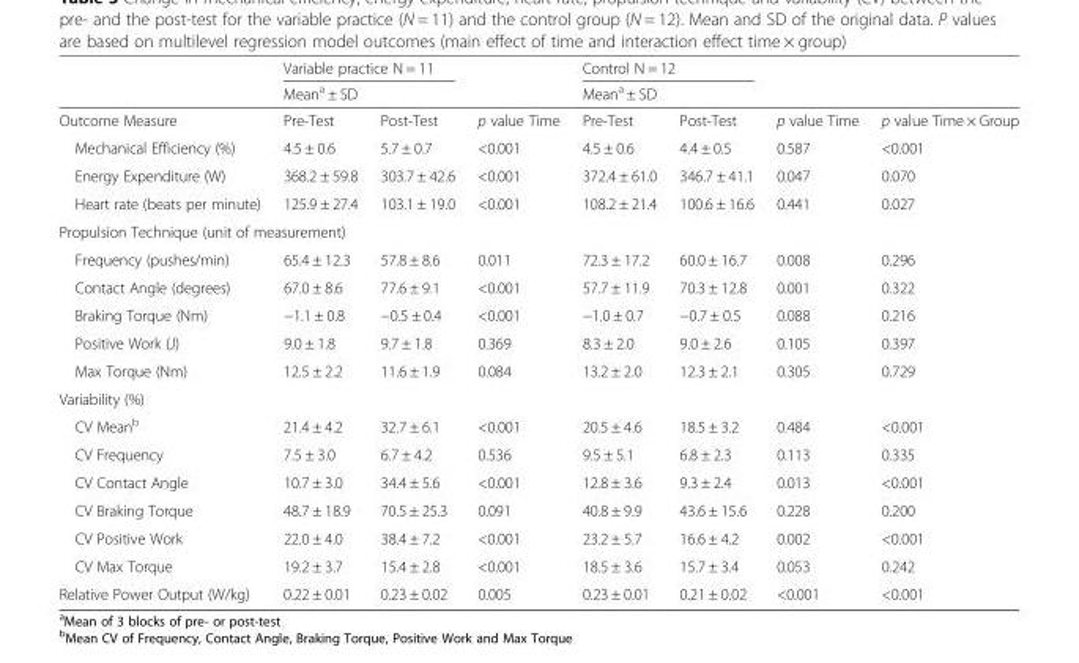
<table><thead><tr><td rowspan="3">Outcome Measure</td><td rowspan="2" colspan="2">Variable practice N = 11 Mean<sup>a</sup> ± SD</td><td rowspan="3">p value Time</td><td rowspan="2" colspan="2">Control N = 12 Mean<sup>a</sup> ± SD</td><td rowspan="3">p value Time</td><td rowspan="3">p value Time × Group</td></tr><tr></tr><tr><td>Pre-Test</td><td>Post-Test</td><td>Pre-Test</td><td>Post-Test</td></tr></thead><tbody><tr><td>Mechanical Efficiency (%)</td><td>4.5 ± 0.6</td><td>5.7 ± 0.7</td><td>&lt;0.001</td><td>4.5 ± 0.6</td><td>4.4 ± 0.5</td><td>0.587</td><td>&lt;0.001</td></tr><tr><td>Energy Expenditure (W)</td><td>368.2 ± 59.8</td><td>303.7 ± 42.6</td><td>&lt;0.001</td><td>372.4 ± 61.0</td><td>346.7 ± 41.1</td><td>0.047</td><td>0.070</td></tr><tr><td>Heart rate (beats per minute)</td><td>125.9 ± 27.4</td><td>103.1 ± 19.0</td><td>&lt;0.001</td><td>108.2 ± 21.4</td><td>100.6 ± 16.6</td><td>0.441</td><td>0.027</td></tr><tr><td colspan="8">Propulsion Technique (unit of measurement)</td></tr><tr><td>Frequency (pushes/min)</td><td>65.4 ± 12.3</td><td>57.8 ± 8.6</td><td>0.011</td><td>72.3 ± 17.2</td><td>60.0 ± 16.7</td><td>0.008</td><td>0.296</td></tr><tr><td>Contact Angle (degrees)</td><td>67.0 ± 8.6</td><td>77.6 ± 9.1</td><td>&lt;0.001</td><td>57.7 ± 11.9</td><td>70.3 ± 12.8</td><td>0.001</td><td>0.322</td></tr><tr><td>Braking Torque (Nm)</td><td>−1.1 ± 0.8</td><td>−0.5 ± 0.4</td><td>&lt;0.001</td><td>−1.0 ± 0.7</td><td>−0.7 ± 0.5</td><td>0.088</td><td>0.216</td></tr><tr><td>Positive Work (J)</td><td>9.0 ± 1.8</td><td>9.7 ± 1.8</td><td>0.369</td><td>8.3 ± 2.0</td><td>9.0 ± 2.6</td><td>0.105</td><td>0.397</td></tr><tr><td>Max Torque (Nm)</td><td>12.5 ± 2.2</td><td>11.6 ± 1.9</td><td>0.084</td><td>13.2 ± 2.0</td><td>12.3 ± 2.1</td><td>0.305</td><td>0.729</td></tr><tr><td colspan="8">Variability (%)</td></tr><tr><td>CV Mean<sup>b</sup></td><td>21.4 ± 4.2</td><td>32.7 ± 6.1</td><td>&lt;0.001</td><td>20.5 ± 4.6</td><td>18.5 ± 3.2</td><td>0.484</td><td>&lt;0.001</td></tr><tr><td>CV Frequency</td><td>7.5 ± 3.0</td><td>6.7 ± 4.2</td><td>0.536</td><td>9.5 ± 5.1</td><td>6.8 ± 2.3</td><td>0.113</td><td>0.335</td></tr><tr><td>CV Contact Angle</td><td>10.7 ± 3.0</td><td>34.4 ± 5.6</td><td>&lt;0.001</td><td>12.8 ± 3.6</td><td>9.3 ± 2.4</td><td>0.013</td><td>&lt;0.001</td></tr><tr><td>CV Braking Torque</td><td>48.7 ± 18.9</td><td>70.5 ± 25.3</td><td>0.091</td><td>40.8 ± 9.9</td><td>43.6 ± 15.6</td><td>0.228</td><td>0.200</td></tr><tr><td>CV Positive Work</td><td>22.0 ± 4.0</td><td>38.4 ± 7.2</td><td>&lt;0.001</td><td>23.2 ± 5.7</td><td>16.6 ± 4.2</td><td>0.002</td><td>&lt;0.001</td></tr><tr><td>CV Max Torque</td><td>19.2 ± 3.7</td><td>15.4 ± 2.8</td><td>&lt;0.001</td><td>18.5 ± 3.6</td><td>15.7 ± 3.4</td><td>0.053</td><td>0.242</td></tr><tr><td>Relative Power Output (W/kg)</td><td>0.22 ± 0.01</td><td>0.23 ± 0.02</td><td>0.005</td><td>0.23 ± 0.01</td><td>0.21 ± 0.02</td><td>&lt;0.001</td><td>&lt;0.001</td></tr></tbody></table>